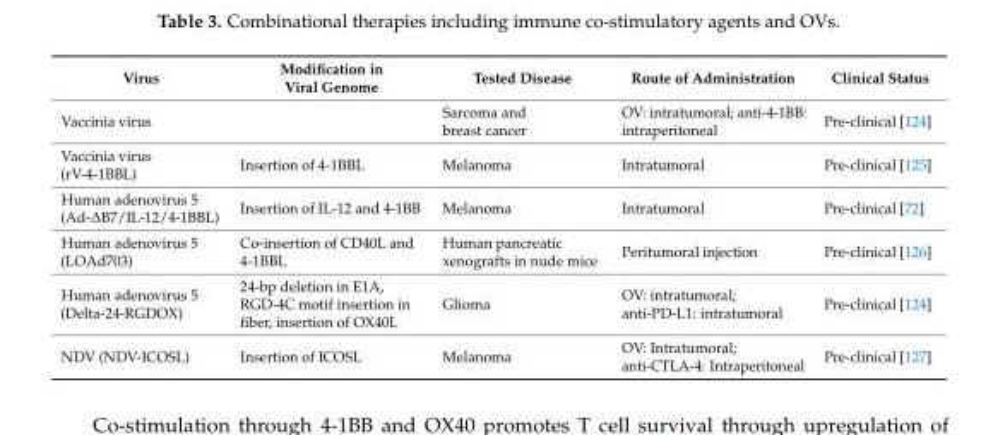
<table><thead><tr><td>Virus</td><td>Modification in Viral Genome</td><td>Tested Disease</td><td>Route of Administration</td><td>Clinical Status</td></tr></thead><tbody><tr><td>Vaccinia virus</td><td></td><td>Sarcoma and breast cancer</td><td>OV: intratumoral; anti-4-1BB: intraperitoneal</td><td>Pre-clinical [124]</td></tr><tr><td>Vaccinia virus (rV-4-1BBL)</td><td>Insertion of 4-1BBL</td><td>Melanoma</td><td>Intratumoral</td><td>Pre-clinical [125]</td></tr><tr><td>Human adenovirus 5 (Ad-∆B7/IL-12/4-1BBL)</td><td>Insertion of IL-12 and 4-1BB</td><td>Melanoma</td><td>Intratumoral</td><td>Pre-clinical [72]</td></tr><tr><td>Human adenovirus 5 (LOAd703)</td><td>Co-insertion of CD40L and 4-1BBL</td><td>Human pancreatic xenografts in nude mice</td><td>Peritumoral injection</td><td>Pre-clinical [126]</td></tr><tr><td>Human adenovirus 5 (Delta-24-RGDOX)</td><td>24-bp deletion in E1A, RGD-4C motif insertion in fiber, insertion of OX40L</td><td>Glioma</td><td>OV: intratumoral; anti-PD-L1: intratumoral</td><td>Pre-clinical [124]</td></tr><tr><td>NDV (NDV-ICOSL)</td><td>Insertion of ICOSL</td><td>Melanoma</td><td>OV: Intratumoral; anti-CTLA-4: Intraperitoneal</td><td>Pre-clinical [127]</td></tr></tbody></table>